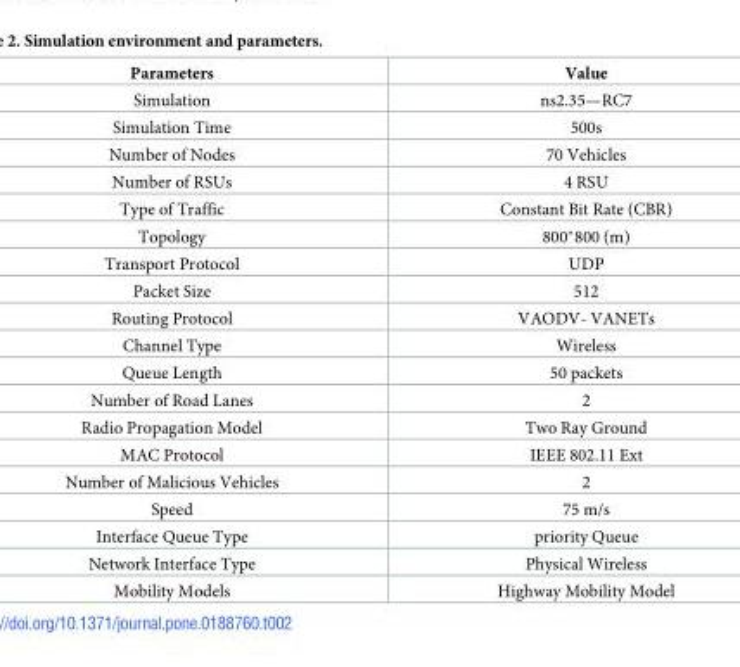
<table><thead><tr><td>Parameters</td><td>Value</td></tr></thead><tbody><tr><td>Simulation</td><td>ns2.35—RC7</td></tr><tr><td>Simulation Time</td><td>500s</td></tr><tr><td>Number of Nodes</td><td>70 Vehicles</td></tr><tr><td>Number of RSUs</td><td>4 RSU</td></tr><tr><td>Type of Traffic</td><td>Constant Bit Rate (CBR)</td></tr><tr><td>Topology</td><td>800*800 (m)</td></tr><tr><td>Transport Protocol</td><td>UDP</td></tr><tr><td>Packet Size</td><td>512</td></tr><tr><td>Routing Protocol</td><td>VAODV- VANETs</td></tr><tr><td>Channel Type</td><td>Wireless</td></tr><tr><td>Queue Length</td><td>50 packets</td></tr><tr><td>Number of Road Lanes</td><td>2</td></tr><tr><td>Radio Propagation Model</td><td>Two Ray Ground</td></tr><tr><td>MAC Protocol</td><td>IEEE 802.11 Ext</td></tr><tr><td>Number of Malicious Vehicles</td><td>2</td></tr><tr><td>Speed</td><td>75 m/s</td></tr><tr><td>Interface Queue Type</td><td>priority Queue</td></tr><tr><td>Network Interface Type</td><td>Physical Wireless</td></tr><tr><td>Mobility Models</td><td>Highway Mobility Model</td></tr></tbody></table>